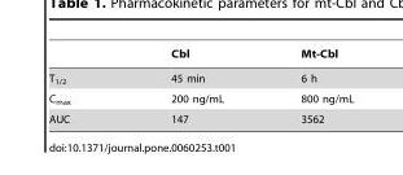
<table><thead><tr><td></td><td>Cbl</td><td>Mt-Cbl</td></tr></thead><tbody><tr><td>T<sub>1/2</sub></td><td>45 min</td><td>6 h</td></tr><tr><td>C<sub>max</sub></td><td>200 ng/mL</td><td>800 ng/mL</td></tr><tr><td>AUC</td><td>147</td><td>3562</td></tr></tbody></table>